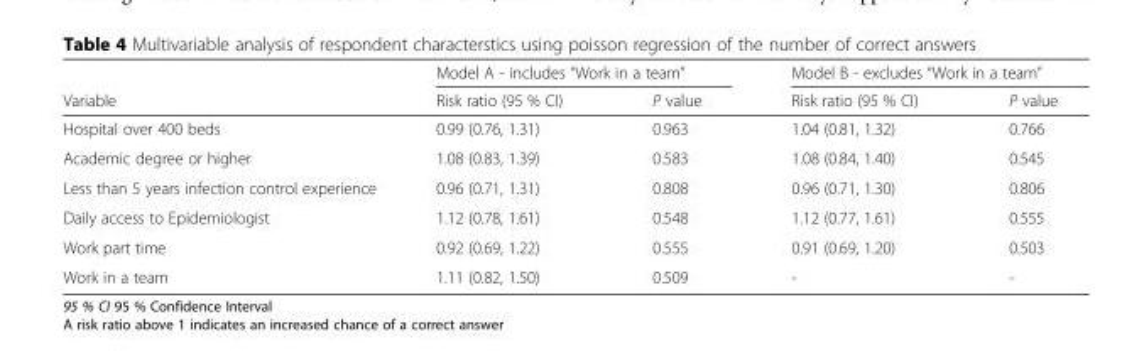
<table><thead><tr><td rowspan="2">Variable</td><td colspan="2">Model A - includes “Work in a team”</td><td colspan="2">Model B - excludes “Work in a team”</td></tr><tr><td>Risk ratio (95 % CI)</td><td>P value</td><td>Risk ratio (95 % CI)</td><td>P value</td></tr></thead><tbody><tr><td>Hospital over 400 beds</td><td>0.99 (0.76, 1.31)</td><td>0.963</td><td>1.04 (0.81, 1.32)</td><td>0.766</td></tr><tr><td>Academic degree or higher</td><td>1.08 (0.83, 1.39)</td><td>0.583</td><td>1.08 (0.84, 1.40)</td><td>0.545</td></tr><tr><td>Less than 5 years infection control experience</td><td>0.96 (0.71, 1.31)</td><td>0.808</td><td>0.96 (0.71, 1.30)</td><td>0.806</td></tr><tr><td>Daily access to Epidemiologist</td><td>1.12 (0.78, 1.61)</td><td>0.548</td><td>1.12 (0.77, 1.61)</td><td>0.555</td></tr><tr><td>Work part time</td><td>0.92 (0.69, 1.22)</td><td>0.555</td><td>0.91 (0.69, 1.20)</td><td>0.503</td></tr><tr><td>Work in a team</td><td>1.11 (0.82, 1.50)</td><td>0.509</td><td>-</td><td>-</td></tr></tbody></table>